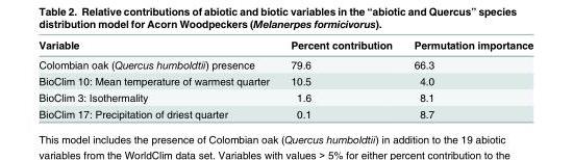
<table><thead><tr><td>Variable</td><td>Percent contribution</td><td>Permutation importance</td></tr></thead><tbody><tr><td>Colombian oak (Quercus humboldtii) presence</td><td>79.6</td><td>66.3</td></tr><tr><td>BioClim 10: Mean temperature of warmest quarter</td><td>10.5</td><td>4.0</td></tr><tr><td>BioClim 3: Isothermality</td><td>1.6</td><td>8.1</td></tr><tr><td>BioClim 17: Precipitation of driest quarter</td><td>0.1</td><td>8.7</td></tr></tbody></table>